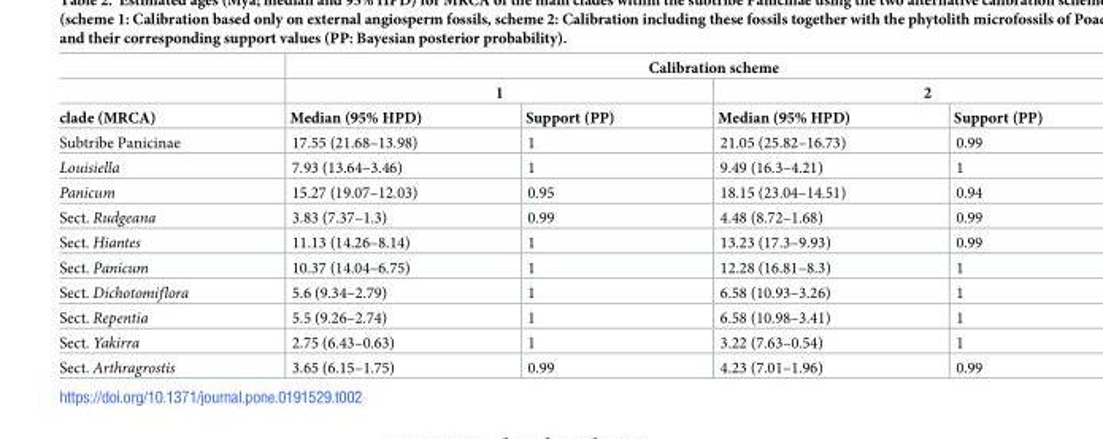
<table><thead><tr><td rowspan="3">clade (MRCA)</td><td colspan="4">Calibration scheme</td></tr><tr><td colspan="2">1</td><td colspan="2">2</td></tr><tr><td>Median (95% HPD)</td><td>Support (PP)</td><td>Median (95% HPD)</td><td>Support (PP)</td></tr></thead><tbody><tr><td>Subtribe Panicinae</td><td>17.55 (21.68–13.98)</td><td>1</td><td>21.05 (25.82–16.73)</td><td>0.99</td></tr><tr><td>Louisiella</td><td>7.93 (13.64–3.46)</td><td>1</td><td>9.49 (16.3–4.21)</td><td>1</td></tr><tr><td>Panicum</td><td>15.27 (19.07–12.03)</td><td>0.95</td><td>18.15 (23.04–14.51)</td><td>0.94</td></tr><tr><td>Sect. Rudgeana</td><td>3.83 (7.37–1.3)</td><td>0.99</td><td>4.48 (8.72–1.68)</td><td>0.99</td></tr><tr><td>Sect. Hiantes</td><td>11.13 (14.26–8.14)</td><td>1</td><td>13.23 (17.3–9.93)</td><td>0.99</td></tr><tr><td>Sect. Panicum</td><td>10.37 (14.04–6.75)</td><td>1</td><td>12.28 (16.81–8.3)</td><td>1</td></tr><tr><td>Sect. Dichotomiflora</td><td>5.6 (9.34–2.79)</td><td>1</td><td>6.58 (10.93–3.26)</td><td>1</td></tr><tr><td>Sect. Repentia</td><td>5.5 (9.26–2.74)</td><td>1</td><td>6.58 (10.98–3.41)</td><td>1</td></tr><tr><td>Sect. Yakirra</td><td>2.75 (6.43–0.63)</td><td>1</td><td>3.22 (7.63–0.54)</td><td>1</td></tr><tr><td>Sect. Arthragrostis</td><td>3.65 (6.15–1.75)</td><td>0.99</td><td>4.23 (7.01–1.96)</td><td>0.99</td></tr></tbody></table>